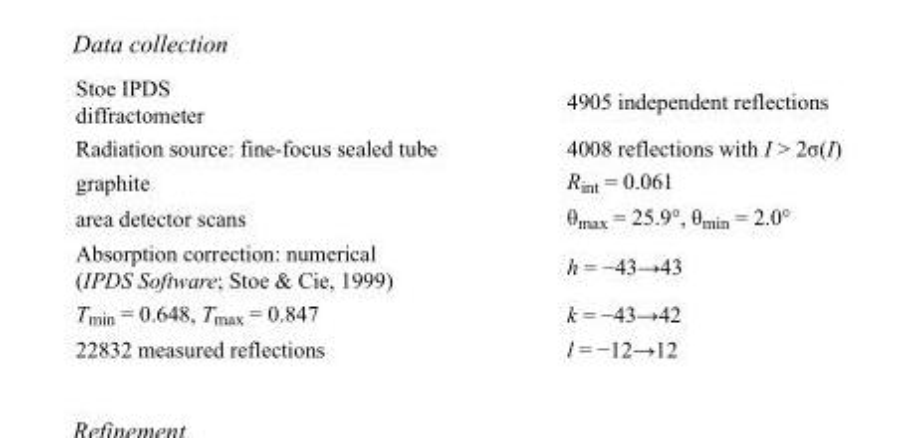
<table><tbody><tr><td>Stoe IPDS diffractometer</td><td>4905 independent reflections</td></tr><tr><td>Radiation source: fine-focus sealed tube</td><td>4008 reflections with I &gt; 2σ(I)</td></tr><tr><td>graphite</td><td>R<sub>int</sub> = 0.061</td></tr><tr><td>area detector scans</td><td>θ<sub>max</sub> = 25.9°, θ<sub>min</sub> = 2.0°</td></tr><tr><td>Absorption correction: numerical (IPDS Software; Stoe &amp; Cie, 1999)</td><td>h = −43→43</td></tr><tr><td>T<sub>min</sub> = 0.648, T<sub>max</sub> = 0.847</td><td>k = −43→42</td></tr><tr><td>22832 measured reflections</td><td>l = −12→12</td></tr></tbody></table>